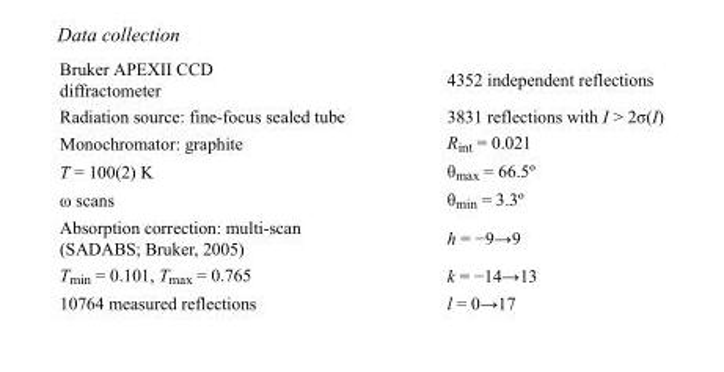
<table><tbody><tr><td>Bruker APEXII CCD diffractometer</td><td>4352 independent reflections</td></tr><tr><td>Radiation source: fine-focus sealed tube</td><td>3831 reflections with I &gt; 2σ(I)</td></tr><tr><td>Monochromator: graphite</td><td>R<sub>int</sub> = 0.021</td></tr><tr><td>T = 100(2) K</td><td>θ<sub>max</sub> = 66.5º</td></tr><tr><td>ω scans</td><td>θ<sub>min</sub> = 3.3º</td></tr><tr><td>Absorption correction: multi-scan (SADABS; Bruker, 2005)</td><td>h = −9→9</td></tr><tr><td>T<sub>min</sub> = 0.101, T<sub>max</sub> = 0.765</td><td>k = −14→13</td></tr><tr><td>10764 measured reflections</td><td>l = 0→17</td></tr></tbody></table>